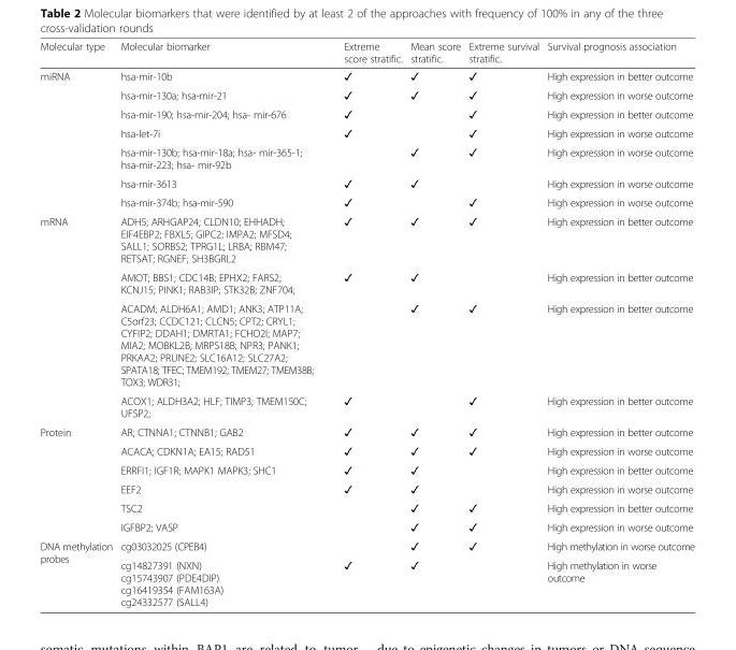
<table><thead><tr><td>Molecular type</td><td>Molecular biomarker</td><td>Extreme score stratific.</td><td>Mean score stratific.</td><td>Extreme survival stratific.</td><td>Survival prognosis association</td></tr></thead><tbody><tr><td rowspan="7">miRNA</td><td>hsa-mir-10b</td><td>✓</td><td>✓</td><td>✓</td><td>High expression in better outcome</td></tr><tr><td>hsa-mir-130a; hsa-mir-21</td><td>✓</td><td>✓</td><td>✓</td><td>High expression in worse outcome</td></tr><tr><td>hsa-mir-190; hsa-mir-204; hsa- mir-676</td><td>✓</td><td></td><td>✓</td><td>High expression in better outcome</td></tr><tr><td>hsa-let-7i</td><td>✓</td><td></td><td>✓</td><td>High expression in worse outcome</td></tr><tr><td>hsa-mir-130b; hsa-mir-18a; hsa- mir-365-1; hsa-mir-223; hsa- mir-92b</td><td></td><td>✓</td><td>✓</td><td>High expression in worse outcome</td></tr><tr><td>hsa-mir-3613</td><td>✓</td><td>✓</td><td></td><td>High expression in worse outcome</td></tr><tr><td>hsa-mir-374b; hsa-mir-590</td><td>✓</td><td></td><td>✓</td><td>High expression in worse outcome</td></tr><tr><td rowspan="4">mRNA</td><td>ADH5; ARHGAP24; CLDN10; EHHADH; EIF4EBP2; FBXL5; GIPC2; IMPA2; MFSD4; SALL1; SORBS2; TPRG1L; LRBA; RBM47; RETSAT; RGNEF; SH3BGRL2</td><td>✓</td><td>✓</td><td>✓</td><td>High expression in better outcome</td></tr><tr><td>AMOT; BBS1; CDC14B; EPHX2; FARS2; KCNJ15; PINK1; RAB3IP; STK32B; ZNF704;</td><td>✓</td><td>✓</td><td></td><td>High expression in better outcome</td></tr><tr><td>ACADM; ALDH6A1; AMD1; ANK3; ATP11A; C5orf23; CCDC121; CLCN5; CPT2; CRYL1; CYFIP2; DDAH1; DMRTA1; FCHO2l; MAP7; MIA2; MOBKL2B; MRPS18B; NPR3; PANK1; PRKAA2; PRUNE2; SLC16A12; SLC27A2; SPATA18; TFEC; TMEM192; TMEM27; TMEM38B; TOX3; WDR31;</td><td></td><td>✓</td><td>✓</td><td>High expression in better outcome</td></tr><tr><td>ACOX1; ALDH3A2; HLF; TIMP3; TMEM150C; UFSP2;</td><td>✓</td><td></td><td>✓</td><td>High expression in better outcome</td></tr><tr><td rowspan="6">Protein</td><td>AR; CTNNA1; CTNNB1; GAB2</td><td>✓</td><td>✓</td><td>✓</td><td>High expression in better outcome</td></tr><tr><td>ACACA; CDKN1A; EA15; RAD51</td><td>✓</td><td>✓</td><td>✓</td><td>High expression in worse outcome</td></tr><tr><td>ERRFI1; IGF1R; MAPK1 MAPK3; SHC1</td><td>✓</td><td>✓</td><td></td><td>High expression in better outcome</td></tr><tr><td>EEF2</td><td>✓</td><td>✓</td><td></td><td>High expression in worse outcome</td></tr><tr><td>TSC2</td><td></td><td>✓</td><td>✓</td><td>High expression in better outcome</td></tr><tr><td>IGFBP2; VASP</td><td></td><td>✓</td><td>✓</td><td>High expression in worse outcome</td></tr><tr><td rowspan="2">DNA methylation probes</td><td>cg03032025 (CPEB4)</td><td></td><td>✓</td><td>✓</td><td>High methylation in worse outcome</td></tr><tr><td>cg14827391 (NXN) cg15743907 (PDE4DIP) cg16419354 (FAM163A) cg24332577 (SALL4)</td><td>✓</td><td>✓</td><td></td><td>High methylation in worse outcome</td></tr></tbody></table>